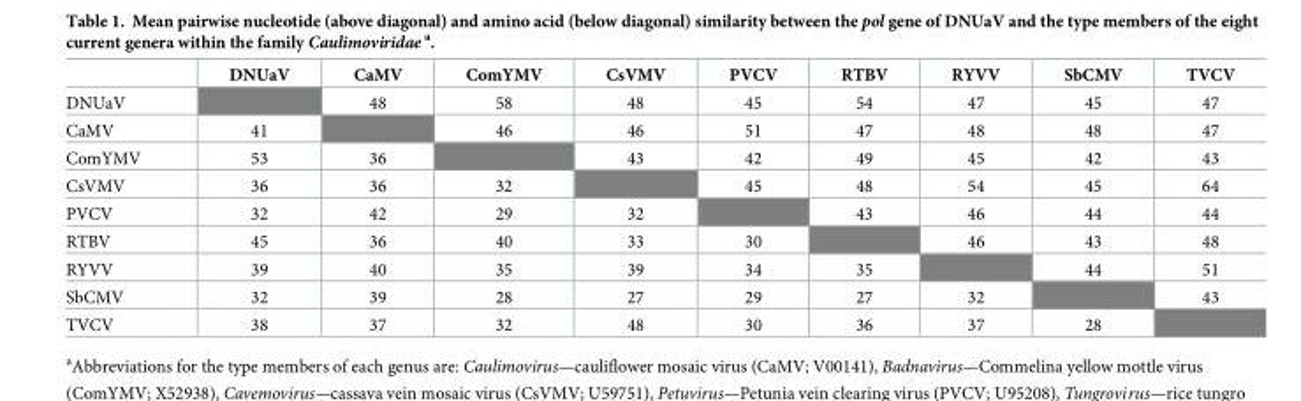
<table><thead><tr><td></td><td>DNUaV</td><td>CaMV</td><td>ComYMV</td><td>CsVMV</td><td>PVCV</td><td>RTBV</td><td>RYVV</td><td>SbCMV</td><td>TVCV</td></tr></thead><tbody><tr><td>DNUaV</td><td></td><td>48</td><td>58</td><td>48</td><td>45</td><td>54</td><td>47</td><td>45</td><td>47</td></tr><tr><td>CaMV</td><td>41</td><td></td><td>46</td><td>46</td><td>51</td><td>47</td><td>48</td><td>48</td><td>47</td></tr><tr><td>ComYMV</td><td>53</td><td>36</td><td></td><td>43</td><td>42</td><td>49</td><td>45</td><td>42</td><td>43</td></tr><tr><td>CsVMV</td><td>36</td><td>36</td><td>32</td><td></td><td>45</td><td>48</td><td>54</td><td>45</td><td>64</td></tr><tr><td>PVCV</td><td>32</td><td>42</td><td>29</td><td>32</td><td></td><td>43</td><td>46</td><td>44</td><td>44</td></tr><tr><td>RTBV</td><td>45</td><td>36</td><td>40</td><td>33</td><td>30</td><td></td><td>46</td><td>43</td><td>48</td></tr><tr><td>RYVV</td><td>39</td><td>40</td><td>35</td><td>39</td><td>34</td><td>35</td><td></td><td>44</td><td>51</td></tr><tr><td>SbCMV</td><td>32</td><td>39</td><td>28</td><td>27</td><td>29</td><td>27</td><td>32</td><td></td><td>43</td></tr><tr><td>TVCV</td><td>38</td><td>37</td><td>32</td><td>48</td><td>30</td><td>36</td><td>37</td><td>28</td><td></td></tr></tbody></table>